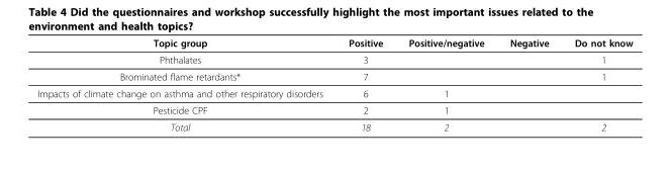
<table><thead><tr><td>Topic group</td><td>Positive</td><td>Positive/negative</td><td>Negative</td><td>Do not know</td></tr></thead><tbody><tr><td>Phthalates</td><td>3</td><td></td><td></td><td>1</td></tr><tr><td>Brominated flame retardants*</td><td>7</td><td></td><td></td><td>1</td></tr><tr><td>Impacts of climate change on asthma and other respiratory disorders</td><td>6</td><td>1</td><td></td><td></td></tr><tr><td>Pesticide CPF</td><td>2</td><td>1</td><td></td><td></td></tr><tr><td>Total</td><td>18</td><td>2</td><td></td><td>2</td></tr></tbody></table>